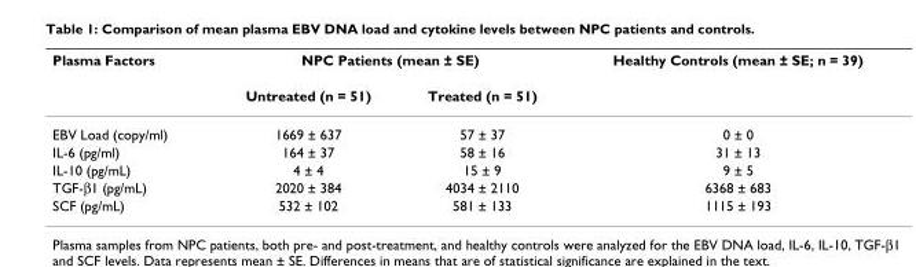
<table><thead><tr><td rowspan="2">Plasma Factors</td><td colspan="2">NPC Patients (mean ± SE)</td><td rowspan="2">Healthy Controls (mean ± SE; n = 39)</td></tr><tr><td>Untreated (n = 51)</td><td>Treated (n = 51)</td></tr></thead><tbody><tr><td>EBV Load (copy/ml)</td><td>1669 ± 637</td><td>57 ± 37</td><td>0 ± 0</td></tr><tr><td>IL-6 (pg/ml)</td><td>164 ± 37</td><td>58 ± 16</td><td>31 ± 13</td></tr><tr><td>IL-10 (pg/mL)</td><td>4 ± 4</td><td>15 ± 9</td><td>9 ± 5</td></tr><tr><td>TGF-β1 (pg/mL)</td><td>2020 ± 384</td><td>4034 ± 2110</td><td>6368 ± 683</td></tr><tr><td>SCF (pg/mL)</td><td>532 ± 102</td><td>581 ± 133</td><td>1115 ± 193</td></tr></tbody></table>